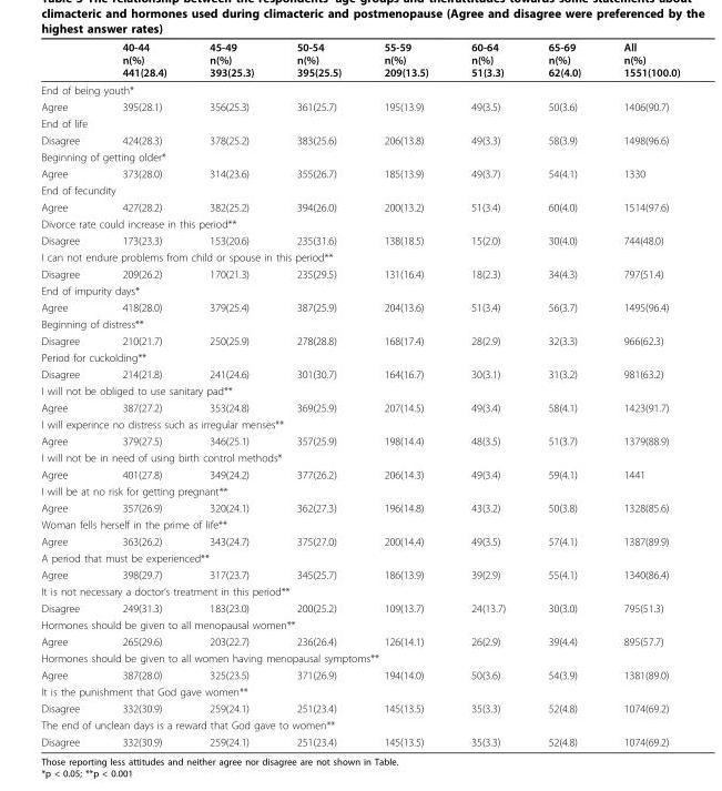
<table><thead><tr><td></td><td>40-44 n(%) 441(28.4)</td><td>45-49 n(%) 393(25.3)</td><td>50-54 n(%) 395(25.5)</td><td>55-59 n(%) 209(13.5)</td><td>60-64 n(%) 51(3.3)</td><td>65-69 n(%) 62(4.0)</td><td>All n(%) 1551(100.0)</td></tr></thead><tbody><tr><td colspan="8">End of being youth*</td></tr><tr><td>Agree</td><td>395(28.1)</td><td>356(25.3)</td><td>361(25.7)</td><td>195(13.9)</td><td>49(3.5)</td><td>50(3.6)</td><td>1406(90.7)</td></tr><tr><td colspan="8">End of life</td></tr><tr><td>Disagree</td><td>424(28.3)</td><td>378(25.2)</td><td>383(25.6)</td><td>206(13.8)</td><td>49(3.3)</td><td>58(3.9)</td><td>1498(96.6)</td></tr><tr><td colspan="8">Beginning of getting older*</td></tr><tr><td>Agree</td><td>373(28.0)</td><td>314(23.6)</td><td>355(26.7)</td><td>185(13.9)</td><td>49(3.7)</td><td>54(4.1)</td><td>1330</td></tr><tr><td colspan="8">End of fecundity</td></tr><tr><td>Agree</td><td>427(28.2)</td><td>382(25.2)</td><td>394(26.0)</td><td>200(13.2)</td><td>51(3.4)</td><td>60(4.0)</td><td>1514(97.6)</td></tr><tr><td colspan="8">Divorce rate could increase in this period**</td></tr><tr><td>Disagree</td><td>173(23.3)</td><td>153(20.6)</td><td>235(31.6)</td><td>138(18.5)</td><td>15(2.0)</td><td>30(4.0)</td><td>744(48.0)</td></tr><tr><td colspan="8">I can not endure problems from child or spouse in this period**</td></tr><tr><td>Disagree</td><td>209(26.2)</td><td>170(21.3)</td><td>235(29.5)</td><td>131(16.4)</td><td>18(2.3)</td><td>34(4.3)</td><td>797(51.4)</td></tr><tr><td colspan="8">End of impurity days*</td></tr><tr><td>Agree</td><td>418(28.0)</td><td>379(25.4)</td><td>387(25.9)</td><td>204(13.6)</td><td>51(3.4)</td><td>56(3.7)</td><td>1495(96.4)</td></tr><tr><td colspan="8">Beginning of distress**</td></tr><tr><td>Disagree</td><td>210(21.7)</td><td>250(25.9)</td><td>278(28.8)</td><td>168(17.4)</td><td>28(2.9)</td><td>32(3.3)</td><td>966(62.3)</td></tr><tr><td colspan="8">Period for cuckolding**</td></tr><tr><td>Disagree</td><td>214(21.8)</td><td>241(24.6)</td><td>301(30.7)</td><td>164(16.7)</td><td>30(3.1)</td><td>31(3.2)</td><td>981(63.2)</td></tr><tr><td colspan="8">I will not be obliged to use sanitary pad**</td></tr><tr><td>Agree</td><td>387(27.2)</td><td>353(24.8)</td><td>369(25.9)</td><td>207(14.5)</td><td>49(3.4)</td><td>58(4.1)</td><td>1423(91.7)</td></tr><tr><td colspan="8">I will experince no distress such as irregular menses**</td></tr><tr><td>Agree</td><td>379(27.5)</td><td>346(25.1)</td><td>357(25.9)</td><td>198(14.4)</td><td>48(3.5)</td><td>51(3.7)</td><td>1379(88.9)</td></tr><tr><td colspan="8">I will not be in need of using birth control methods*</td></tr><tr><td>Agree</td><td>401(27.8)</td><td>349(24.2)</td><td>377(26.2)</td><td>206(14.3)</td><td>49(3.4)</td><td>59(4.1)</td><td>1441</td></tr><tr><td colspan="8">I will be at no risk for getting pregnant**</td></tr><tr><td>Agree</td><td>357(26.9)</td><td>320(24.1)</td><td>362(27.3)</td><td>196(14.8)</td><td>43(3.2)</td><td>50(3.8)</td><td>1328(85.6)</td></tr><tr><td colspan="8">Woman fells herself in the prime of life**</td></tr><tr><td>Agree</td><td>363(26.2)</td><td>343(24.7)</td><td>375(27.0)</td><td>200(14.4)</td><td>49(3.5)</td><td>57(4.1)</td><td>1387(89.9)</td></tr><tr><td colspan="8">A period that must be experienced**</td></tr><tr><td>Agree</td><td>398(29.7)</td><td>317(23.7)</td><td>345(25.7)</td><td>186(13.9)</td><td>39(2.9)</td><td>55(4.1)</td><td>1340(86.4)</td></tr><tr><td colspan="8">It is not necessary a doctor’s treatment in this period**</td></tr><tr><td>Disagree</td><td>249(31.3)</td><td>183(23.0)</td><td>200(25.2)</td><td>109(13.7)</td><td>24(13.7)</td><td>30(3.0)</td><td>795(51.3)</td></tr><tr><td colspan="8">Hormones should be given to all menopausal women**</td></tr><tr><td>Agree</td><td>265(29.6)</td><td>203(22.7)</td><td>236(26.4)</td><td>126(14.1)</td><td>26(2.9)</td><td>39(4.4)</td><td>895(57.7)</td></tr><tr><td colspan="8">Hormones should be given to all women having menopausal symptoms**</td></tr><tr><td>Agree</td><td>387(28.0)</td><td>325(23.5)</td><td>371(26.9)</td><td>194(14.0)</td><td>50(3.6)</td><td>54(3.9)</td><td>1381(89.0)</td></tr><tr><td colspan="8">It is the punishment that God gave women**</td></tr><tr><td>Disagree</td><td>332(30.9)</td><td>259(24.1)</td><td>251(23.4)</td><td>145(13.5)</td><td>35(3.3)</td><td>52(4.8)</td><td>1074(69.2)</td></tr><tr><td colspan="8">The end of unclean days is a reward that God gave to women**</td></tr><tr><td>Disagree</td><td>332(30.9)</td><td>259(24.1)</td><td>251(23.4)</td><td>145(13.5)</td><td>35(3.3)</td><td>52(4.8)</td><td>1074(69.2)</td></tr></tbody></table>